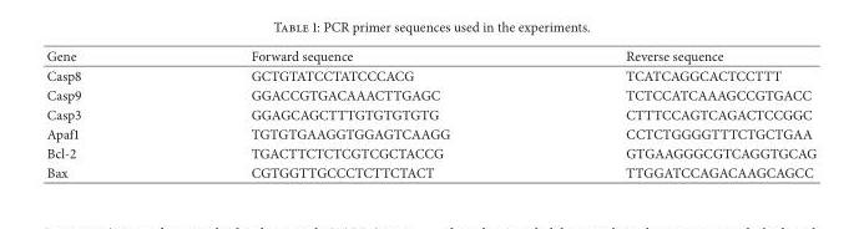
<table><thead><tr><td>Gene</td><td>Forward sequence</td><td>Reverse sequence</td></tr></thead><tbody><tr><td>Casp8</td><td>GCTGTATCCTATCCCACG</td><td>TCATCAGGCACTCCTTT</td></tr><tr><td>Casp9</td><td>GGACCGTGACAAACTTGAGC</td><td>TCTCCATCAAAGCCGTGACC</td></tr><tr><td>Casp3</td><td>GGAGCAGCTTTGTGTGTGTG</td><td>CTTTCCAGTCAGACTCCGGC</td></tr><tr><td>Apaf1</td><td>TGTGTGAAGGTGGAGTCAAGG</td><td>CCTCTGGGGTTTCTGCTGAA</td></tr><tr><td>Bcl-2</td><td>TGACTTCTCTCGTCGCTACCG</td><td>GTGAAGGGCGTCAGGTGCAG</td></tr><tr><td>Bax</td><td>CGTGGTTGCCCTCTTCTACT</td><td>TTGGATCCAGACAAGCAGCC</td></tr></tbody></table>